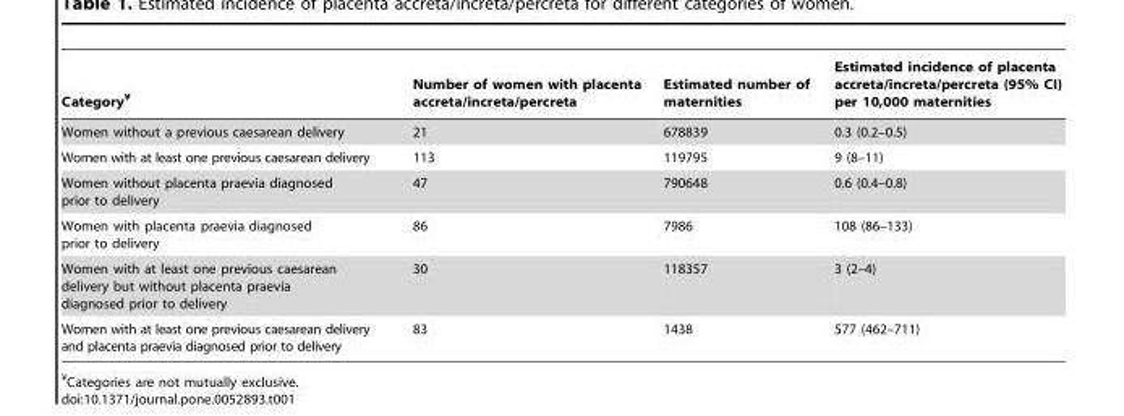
<table><thead><tr><td>Category¥</td><td>Number of women with placenta accreta/increta/percreta</td><td>Estimated number of maternities</td><td>Estimated incidence of placenta accreta/increta/percreta (95% CI) per 10,000 maternities</td></tr></thead><tbody><tr><td>Women without a previous caesarean delivery</td><td>21</td><td>678839</td><td>0.3 (0.2–0.5)</td></tr><tr><td>Women with at least one previous caesarean delivery</td><td>113</td><td>119795</td><td>9 (8–11)</td></tr><tr><td>Women without placenta praevia diagnosed prior to delivery</td><td>47</td><td>790648</td><td>0.6 (0.4–0.8)</td></tr><tr><td>Women with placenta praevia diagnosed prior to delivery</td><td>86</td><td>7986</td><td>108 (86–133)</td></tr><tr><td>Women with at least one previous caesarean delivery but without placenta praevia diagnosed prior to delivery</td><td>30</td><td>118357</td><td>3 (2–4)</td></tr><tr><td>Women with at least one previous caesarean delivery and placenta praevia diagnosed prior to delivery</td><td>83</td><td>1438</td><td>577 (462–711)</td></tr></tbody></table>